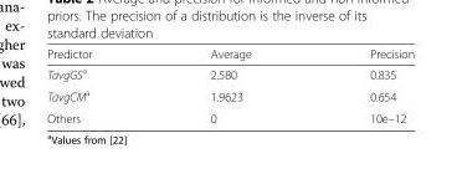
<table><thead><tr><td>Predictor</td><td>Average</td><td>Precision</td></tr></thead><tbody><tr><td>TavgGS<sup>a</sup></td><td>2.580</td><td>0.835</td></tr><tr><td>TavgCM<sup>a</sup></td><td>1.9623</td><td>0.654</td></tr><tr><td>Others</td><td>0</td><td>10e–12</td></tr></tbody></table>